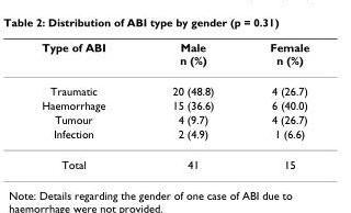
<table><thead><tr><td>Type of ABI</td><td>Male n (%)</td><td>Female n (%)</td></tr></thead><tbody><tr><td>Traumatic</td><td>20 (48.8)</td><td>4 (26.7)</td></tr><tr><td>Haemorrhage</td><td>15 (36.6)</td><td>6 (40.0)</td></tr><tr><td>Tumour</td><td>4 (9.7)</td><td>4 (26.7)</td></tr><tr><td>Infection</td><td>2 (4.9)</td><td>1 (6.6)</td></tr><tr><td>Total</td><td>41</td><td>15</td></tr></tbody></table>